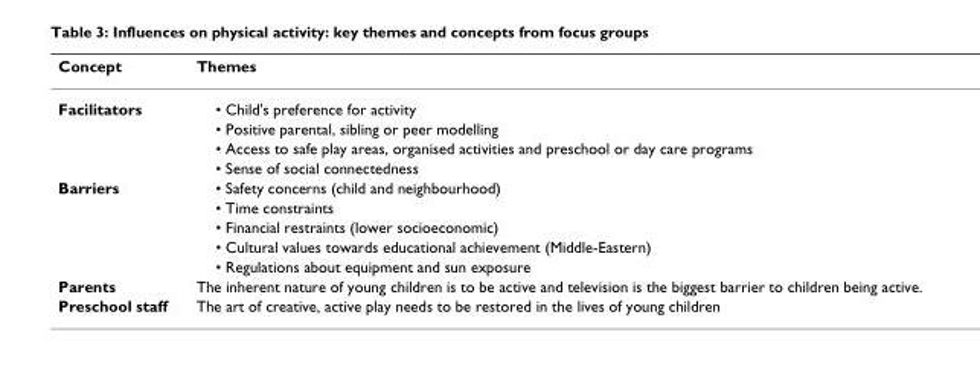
<table><thead><tr><td>Concept</td><td>Themes</td></tr></thead><tbody><tr><td rowspan="4">Facilitators</td><td>• Child&#x27;s preference for activity</td></tr><tr><td>• Positive parental, sibling or peer modelling</td></tr><tr><td>• Access to safe play areas, organised activities and preschool or day care programs</td></tr><tr><td>• Sense of social connectedness</td></tr><tr><td rowspan="5">Barriers</td><td>• Safety concerns (child and neighbourhood)</td></tr><tr><td>• Time constraints</td></tr><tr><td>• Financial restraints (lower socioeconomic)</td></tr><tr><td>• Cultural values towards educational achievement (Middle-Eastern)</td></tr><tr><td>• Regulations about equipment and sun exposure</td></tr><tr><td>Parents</td><td>The inherent nature of young children is to be active and television is the biggest barrier to children being active.</td></tr><tr><td>Preschool staff</td><td>The art of creative, active play needs to be restored in the lives of young children</td></tr></tbody></table>